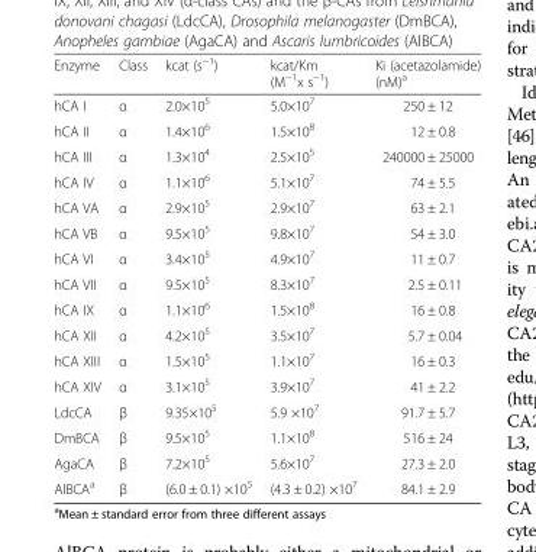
<table><thead><tr><td>Enzyme</td><td>Class</td><td>kcat (s<sup>−1</sup>)</td><td>kcat/Km (M<sup>−1</sup>x s<sup>−1</sup>)</td><td>Ki (acetazolamide) (nM)<sup>a</sup></td></tr></thead><tbody><tr><td>hCA I</td><td>α</td><td>2.0×10<sup>5</sup></td><td>5.0×10<sup>7</sup></td><td>250 ± 12</td></tr><tr><td>hCA II</td><td>α</td><td>1.4×10<sup>6</sup></td><td>1.5×10<sup>8</sup></td><td>12 ± 0.8</td></tr><tr><td>hCA III</td><td>α</td><td>1.3×10<sup>4</sup></td><td>2.5×10<sup>5</sup></td><td>240000 ± 25000</td></tr><tr><td>hCA IV</td><td>α</td><td>1.1×10<sup>6</sup></td><td>5.1×10<sup>7</sup></td><td>74 ± 5.5</td></tr><tr><td>hCA VA</td><td>α</td><td>2.9×10<sup>5</sup></td><td>2.9×10<sup>7</sup></td><td>63 ± 2.1</td></tr><tr><td>hCA VB</td><td>α</td><td>9.5×10<sup>5</sup></td><td>9.8×10<sup>7</sup></td><td>54 ± 3.0</td></tr><tr><td>hCA VI</td><td>α</td><td>3.4×10<sup>5</sup></td><td>4.9×10<sup>7</sup></td><td>11 ± 0.7</td></tr><tr><td>hCA VII</td><td>α</td><td>9.5×10<sup>5</sup></td><td>8.3×10<sup>7</sup></td><td>2.5 ± 0.11</td></tr><tr><td>hCA IX</td><td>α</td><td>1.1×10<sup>6</sup></td><td>1.5×10<sup>8</sup></td><td>16 ± 0.8</td></tr><tr><td>hCA XII</td><td>α</td><td>4.2×10<sup>5</sup></td><td>3.5×10<sup>7</sup></td><td>5.7 ± 0.04</td></tr><tr><td>hCA XIII</td><td>α</td><td>1.5×10<sup>5</sup></td><td>1.1×10<sup>7</sup></td><td>16 ± 0.3</td></tr><tr><td>hCA XIV</td><td>α</td><td>3.1×10<sup>5</sup></td><td>3.9×10<sup>7</sup></td><td>41 ± 2.2</td></tr><tr><td>LdcCA</td><td>β</td><td>9.35×10<sup>5</sup></td><td>5.9 ×10<sup>7</sup></td><td>91.7 ± 5.7</td></tr><tr><td>DmBCA</td><td>β</td><td>9.5×10<sup>5</sup></td><td>1.1×10<sup>8</sup></td><td>516 ± 24</td></tr><tr><td>AgaCA</td><td>β</td><td>7.2×10<sup>5</sup></td><td>5.6×10<sup>7</sup></td><td>27.3 ± 2.0</td></tr><tr><td>AlBCA<sup>a</sup></td><td>β</td><td>(6.0 ± 0.1) ×10<sup>5</sup></td><td>(4.3 ± 0.2) ×10<sup>7</sup></td><td>84.1 ± 2.9</td></tr></tbody></table>